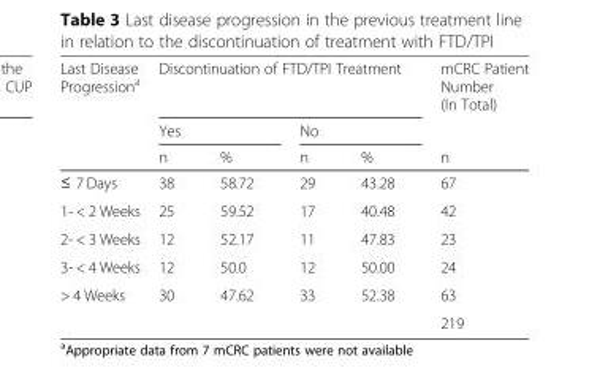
<table><thead><tr><td rowspan="3">Last Disease Progression<sup>a</sup></td><td colspan="4">Discontinuation of FTD/TPI Treatment</td><td rowspan="3">mCRC Patient Number (In Total) n</td></tr><tr><td colspan="2">Yes</td><td colspan="2">No</td></tr><tr><td>n</td><td>%</td><td>n</td><td>%</td></tr></thead><tbody><tr><td>≤ 7 Days</td><td>38</td><td>58.72</td><td>29</td><td>43.28</td><td>67</td></tr><tr><td>1- &lt; 2 Weeks</td><td>25</td><td>59.52</td><td>17</td><td>40.48</td><td>42</td></tr><tr><td>2- &lt; 3 Weeks</td><td>12</td><td>52.17</td><td>11</td><td>47.83</td><td>23</td></tr><tr><td>3- &lt; 4 Weeks</td><td>12</td><td>50.0</td><td>12</td><td>50.00</td><td>24</td></tr><tr><td rowspan="2">&gt; 4 Weeks</td><td>30</td><td>47.62</td><td>33</td><td>52.38</td><td>63</td></tr><tr><td></td><td></td><td></td><td></td><td>219</td></tr></tbody></table>